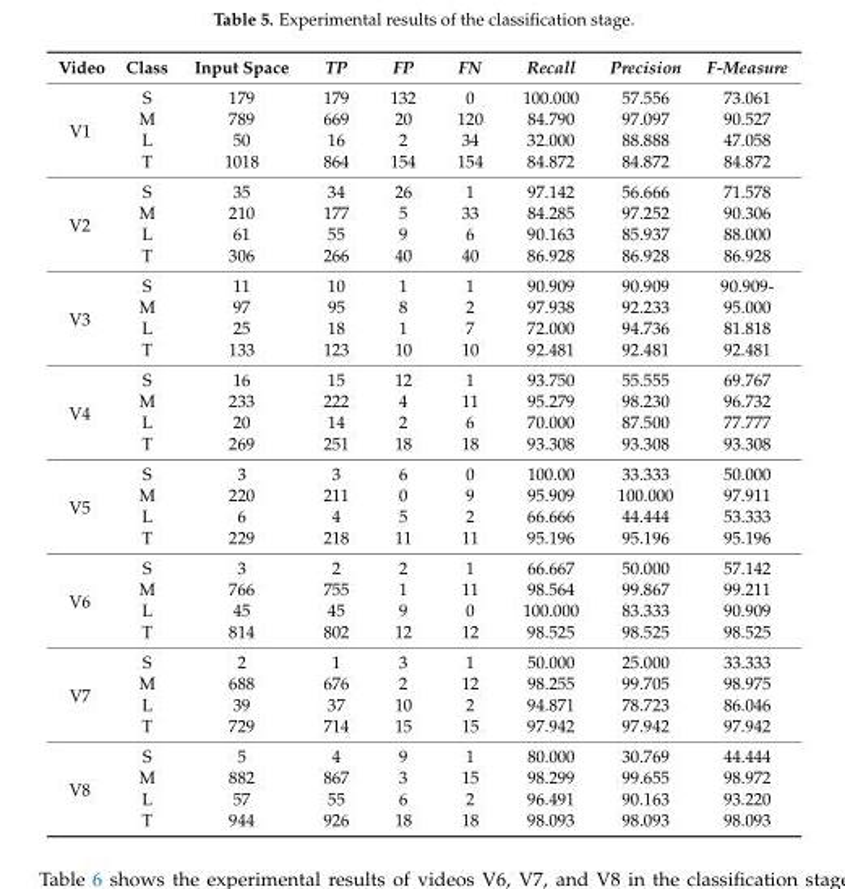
<table><thead><tr><td>Video</td><td>Class</td><td>Input Space</td><td>TP</td><td>FP</td><td>FN</td><td>Recall</td><td>Precision</td><td>F-Measure</td></tr></thead><tbody><tr><td rowspan="4">V1</td><td>S</td><td>179</td><td>179</td><td>132</td><td>0</td><td>100.000</td><td>57.556</td><td>73.061</td></tr><tr><td>M</td><td>789</td><td>669</td><td>20</td><td>120</td><td>84.790</td><td>97.097</td><td>90.527</td></tr><tr><td>L</td><td>50</td><td>16</td><td>2</td><td>34</td><td>32.000</td><td>88.888</td><td>47.058</td></tr><tr><td>T</td><td>1018</td><td>864</td><td>154</td><td>154</td><td>84.872</td><td>84.872</td><td>84.872</td></tr><tr><td rowspan="4">V2</td><td>S</td><td>35</td><td>34</td><td>26</td><td>1</td><td>97.142</td><td>56.666</td><td>71.578</td></tr><tr><td>M</td><td>210</td><td>177</td><td>5</td><td>33</td><td>84.285</td><td>97.252</td><td>90.306</td></tr><tr><td>L</td><td>61</td><td>55</td><td>9</td><td>6</td><td>90.163</td><td>85.937</td><td>88.000</td></tr><tr><td>T</td><td>306</td><td>266</td><td>40</td><td>40</td><td>86.928</td><td>86.928</td><td>86.928</td></tr><tr><td rowspan="4">V3</td><td>S</td><td>11</td><td>10</td><td>1</td><td>1</td><td>90.909</td><td>90.909</td><td>90.909-</td></tr><tr><td>M</td><td>97</td><td>95</td><td>8</td><td>2</td><td>97.938</td><td>92.233</td><td>95.000</td></tr><tr><td>L</td><td>25</td><td>18</td><td>1</td><td>7</td><td>72.000</td><td>94.736</td><td>81.818</td></tr><tr><td>T</td><td>133</td><td>123</td><td>10</td><td>10</td><td>92.481</td><td>92.481</td><td>92.481</td></tr><tr><td rowspan="4">V4</td><td>S</td><td>16</td><td>15</td><td>12</td><td>1</td><td>93.750</td><td>55.555</td><td>69.767</td></tr><tr><td>M</td><td>233</td><td>222</td><td>4</td><td>11</td><td>95.279</td><td>98.230</td><td>96.732</td></tr><tr><td>L</td><td>20</td><td>14</td><td>2</td><td>6</td><td>70.000</td><td>87.500</td><td>77.777</td></tr><tr><td>T</td><td>269</td><td>251</td><td>18</td><td>18</td><td>93.308</td><td>93.308</td><td>93.308</td></tr><tr><td rowspan="4">V5</td><td>S</td><td>3</td><td>3</td><td>6</td><td>0</td><td>100.00</td><td>33.333</td><td>50.000</td></tr><tr><td>M</td><td>220</td><td>211</td><td>0</td><td>9</td><td>95.909</td><td>100.000</td><td>97.911</td></tr><tr><td>L</td><td>6</td><td>4</td><td>5</td><td>2</td><td>66.666</td><td>44.444</td><td>53.333</td></tr><tr><td>T</td><td>229</td><td>218</td><td>11</td><td>11</td><td>95.196</td><td>95.196</td><td>95.196</td></tr><tr><td rowspan="4">V6</td><td>S</td><td>3</td><td>2</td><td>2</td><td>1</td><td>66.667</td><td>50.000</td><td>57.142</td></tr><tr><td>M</td><td>766</td><td>755</td><td>1</td><td>11</td><td>98.564</td><td>99.867</td><td>99.211</td></tr><tr><td>L</td><td>45</td><td>45</td><td>9</td><td>0</td><td>100.000</td><td>83.333</td><td>90.909</td></tr><tr><td>T</td><td>814</td><td>802</td><td>12</td><td>12</td><td>98.525</td><td>98.525</td><td>98.525</td></tr><tr><td rowspan="4">V7</td><td>S</td><td>2</td><td>1</td><td>3</td><td>1</td><td>50.000</td><td>25.000</td><td>33.333</td></tr><tr><td>M</td><td>688</td><td>676</td><td>2</td><td>12</td><td>98.255</td><td>99.705</td><td>98.975</td></tr><tr><td>L</td><td>39</td><td>37</td><td>10</td><td>2</td><td>94.871</td><td>78.723</td><td>86.046</td></tr><tr><td>T</td><td>729</td><td>714</td><td>15</td><td>15</td><td>97.942</td><td>97.942</td><td>97.942</td></tr><tr><td rowspan="4">V8</td><td>S</td><td>5</td><td>4</td><td>9</td><td>1</td><td>80.000</td><td>30.769</td><td>44.444</td></tr><tr><td>M</td><td>882</td><td>867</td><td>3</td><td>15</td><td>98.299</td><td>99.655</td><td>98.972</td></tr><tr><td>L</td><td>57</td><td>55</td><td>6</td><td>2</td><td>96.491</td><td>90.163</td><td>93.220</td></tr><tr><td>T</td><td>944</td><td>926</td><td>18</td><td>18</td><td>98.093</td><td>98.093</td><td>98.093</td></tr></tbody></table>